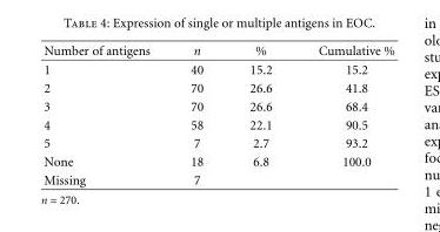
<table><thead><tr><td>Number of antigens</td><td>n</td><td>%</td><td>Cumulative %</td></tr></thead><tbody><tr><td>1</td><td>40</td><td>15.2</td><td>15.2</td></tr><tr><td>2</td><td>70</td><td>26.6</td><td>41.8</td></tr><tr><td>3</td><td>70</td><td>26.6</td><td>68.4</td></tr><tr><td>4</td><td>58</td><td>22.1</td><td>90.5</td></tr><tr><td>5</td><td>7</td><td>2.7</td><td>93.2</td></tr><tr><td>None</td><td>18</td><td>6.8</td><td>100.0</td></tr><tr><td>Missing</td><td>7</td><td></td><td></td></tr></tbody></table>